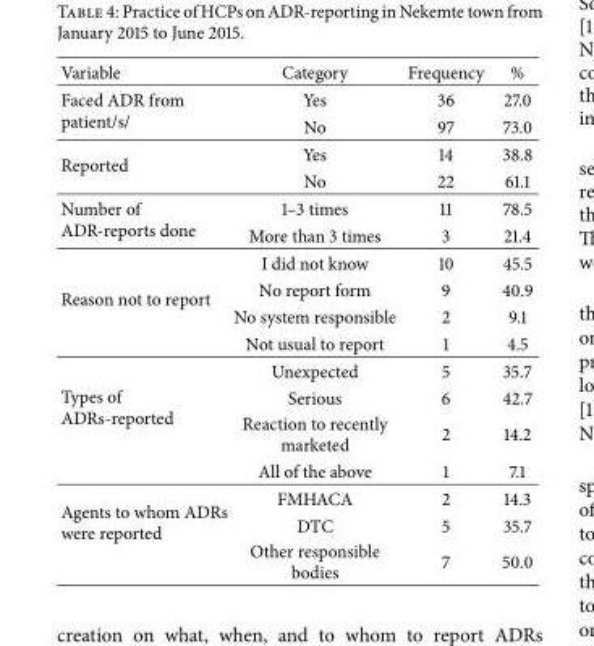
<table><thead><tr><td>Variable</td><td>Category</td><td>Frequency</td><td>%</td></tr></thead><tbody><tr><td rowspan="2">Faced ADR from patient/s/</td><td>Yes</td><td>36</td><td>27.0</td></tr><tr><td>No</td><td>97</td><td>73.0</td></tr><tr><td rowspan="2">Reported</td><td>Yes</td><td>14</td><td>38.8</td></tr><tr><td>No</td><td>22</td><td>61.1</td></tr><tr><td rowspan="2">Number of ADR-reports done</td><td>1–3 times</td><td>11</td><td>78.5</td></tr><tr><td>More than 3 times</td><td>3</td><td>21.4</td></tr><tr><td rowspan="4">Reason not to report</td><td>I did not know</td><td>10</td><td>45.5</td></tr><tr><td>No report form</td><td>9</td><td>40.9</td></tr><tr><td>No system responsible</td><td>2</td><td>9.1</td></tr><tr><td>Not usual to report</td><td>1</td><td>4.5</td></tr><tr><td rowspan="4">Types of ADRs-reported</td><td>Unexpected</td><td>5</td><td>35.7</td></tr><tr><td>Serious</td><td>6</td><td>42.7</td></tr><tr><td>Reaction to recently marketed</td><td>2</td><td>14.2</td></tr><tr><td>All of the above</td><td>1</td><td>7.1</td></tr><tr><td rowspan="3">Agents to whom ADRs were reported</td><td>FMHACA</td><td>2</td><td>14.3</td></tr><tr><td>DTC</td><td>5</td><td>35.7</td></tr><tr><td>Other responsible bodies</td><td>7</td><td>50.0</td></tr></tbody></table>